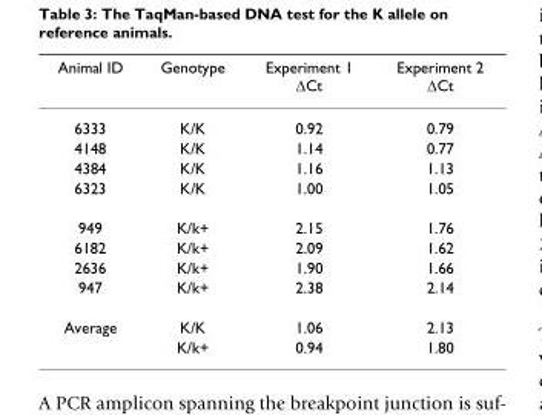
<table><thead><tr><td>Animal ID</td><td>Genotype</td><td>Experiment 1 ΔCt</td><td>Experiment 2 ΔCt</td></tr></thead><tbody><tr><td>6333</td><td>K/K</td><td>0.92</td><td>0.79</td></tr><tr><td>4148</td><td>K/K</td><td>1.14</td><td>0.77</td></tr><tr><td>4384</td><td>K/K</td><td>1.16</td><td>1.13</td></tr><tr><td>6323</td><td>K/K</td><td>1.00</td><td>1.05</td></tr><tr><td>949</td><td>K/k+</td><td>2.15</td><td>1.76</td></tr><tr><td>6182</td><td>K/k+</td><td>2.09</td><td>1.62</td></tr><tr><td>2636</td><td>K/k+</td><td>1.90</td><td>1.66</td></tr><tr><td>947</td><td>K/k+</td><td>2.38</td><td>2.14</td></tr><tr><td rowspan="2">Average</td><td>K/K</td><td>1.06</td><td>2.13</td></tr><tr><td>K/k+</td><td>0.94</td><td>1.80</td></tr></tbody></table>